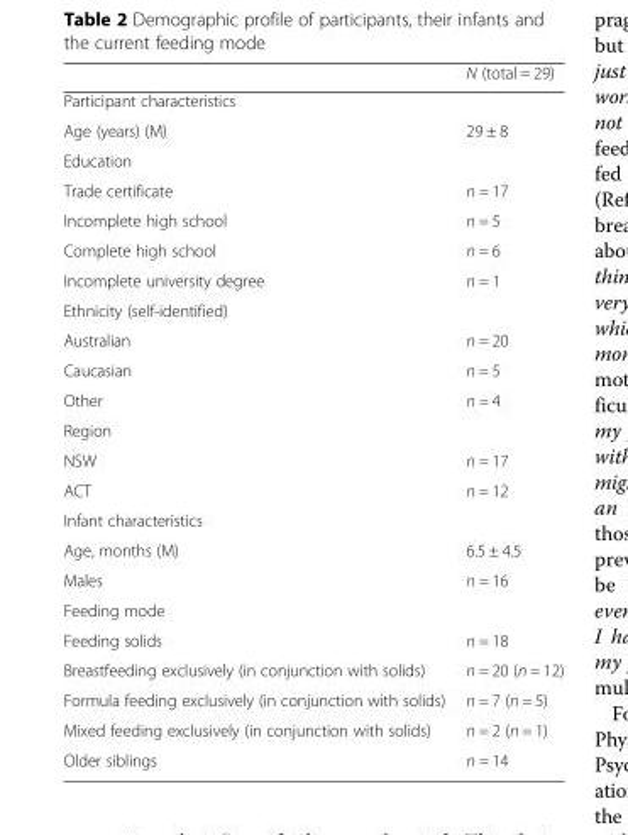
<table><thead><tr><td></td><td>N (total = 29)</td></tr></thead><tbody><tr><td colspan="2">Participant characteristics</td></tr><tr><td>Age (years) (M)</td><td>29 ± 8</td></tr><tr><td colspan="2">Education</td></tr><tr><td>Trade certificate</td><td>n = 17</td></tr><tr><td>Incomplete high school</td><td>n = 5</td></tr><tr><td>Complete high school</td><td>n = 6</td></tr><tr><td>Incomplete university degree</td><td>n = 1</td></tr><tr><td colspan="2">Ethnicity (self-identified)</td></tr><tr><td>Australian</td><td>n = 20</td></tr><tr><td>Caucasian</td><td>n = 5</td></tr><tr><td>Other</td><td>n = 4</td></tr><tr><td colspan="2">Region</td></tr><tr><td>NSW</td><td>n = 17</td></tr><tr><td>ACT</td><td>n = 12</td></tr><tr><td colspan="2">Infant characteristics</td></tr><tr><td>Age, months (M)</td><td>6.5 ± 4.5</td></tr><tr><td>Males</td><td>n = 16</td></tr><tr><td colspan="2">Feeding mode</td></tr><tr><td>Feeding solids</td><td>n = 18</td></tr><tr><td>Breastfeeding exclusively (in conjunction with solids)</td><td>n = 20 (n = 12)</td></tr><tr><td>Formula feeding exclusively (in conjunction with solids)</td><td>n = 7 (n = 5)</td></tr><tr><td>Mixed feeding exclusively (in conjunction with solids)</td><td>n = 2 (n = 1)</td></tr><tr><td>Older siblings</td><td>n = 14</td></tr></tbody></table>